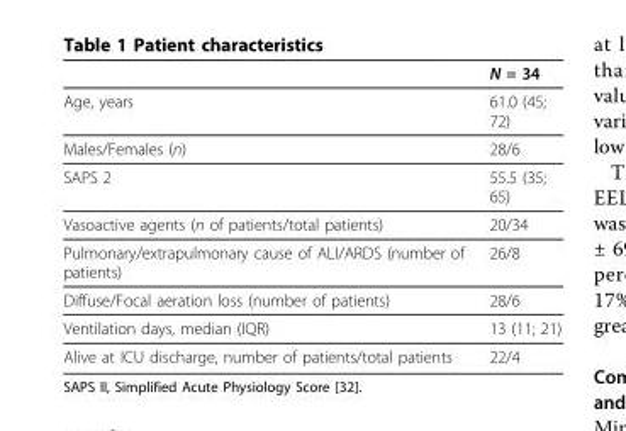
<table><thead><tr><td></td><td>N = 34</td></tr></thead><tbody><tr><td>Age, years</td><td>61.0 (45; 72)</td></tr><tr><td>Males/Females (n)</td><td>28/6</td></tr><tr><td>SAPS 2</td><td>55.5 (35; 65)</td></tr><tr><td>Vasoactive agents (n of patients/total patients)</td><td>20/34</td></tr><tr><td>Pulmonary/extrapulmonary cause of ALI/ARDS (number of patients)</td><td>26/8</td></tr><tr><td>Diffuse/Focal aeration loss (number of patients)</td><td>28/6</td></tr><tr><td>Ventilation days, median (IQR)</td><td>13 (11; 21)</td></tr><tr><td>Alive at ICU discharge, number of patients/total patients</td><td>22/4</td></tr></tbody></table>